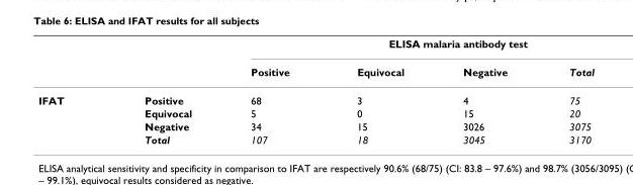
<table><thead><tr><td rowspan="2"></td><td rowspan="2"></td><td colspan="4">ELISA malaria antibody test</td></tr><tr><td>Positive</td><td>Equivocal</td><td>Negative</td><td>Total</td></tr></thead><tbody><tr><td rowspan="4">IFAT</td><td>Positive</td><td>68</td><td>3</td><td>4</td><td>75</td></tr><tr><td>Equivocal</td><td>5</td><td>0</td><td>15</td><td>20</td></tr><tr><td>Negative</td><td>34</td><td>15</td><td>3026</td><td>3075</td></tr><tr><td>Total</td><td>107</td><td>18</td><td>3045</td><td>3170</td></tr></tbody></table>